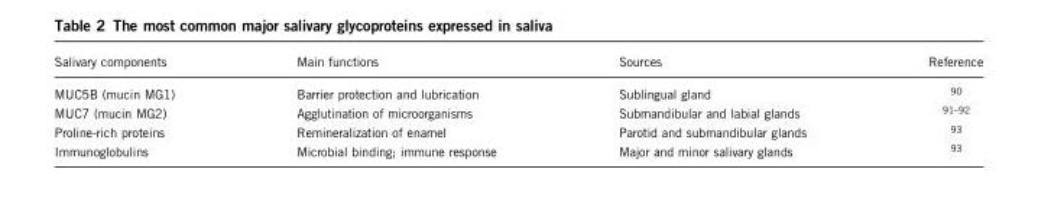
<table><thead><tr><td>Salivary components</td><td>Main functions</td><td>Sources</td><td>Reference</td></tr></thead><tbody><tr><td>MUC5B (mucin MG1)</td><td>Barrier protection and lubrication</td><td>Sublingual gland</td><td><sup>90</sup></td></tr><tr><td>MUC7 (mucin MG2)</td><td>Agglutination of microorganisms</td><td>Submandibular and labial glands</td><td>91–92</td></tr><tr><td>Proline-rich proteins</td><td>Remineralization of enamel</td><td>Parotid and submandibular glands</td><td><sup>93</sup></td></tr><tr><td>Immunoglobulins</td><td>Microbial binding; immune response</td><td>Major and minor salivary glands</td><td><sup>93</sup></td></tr></tbody></table>